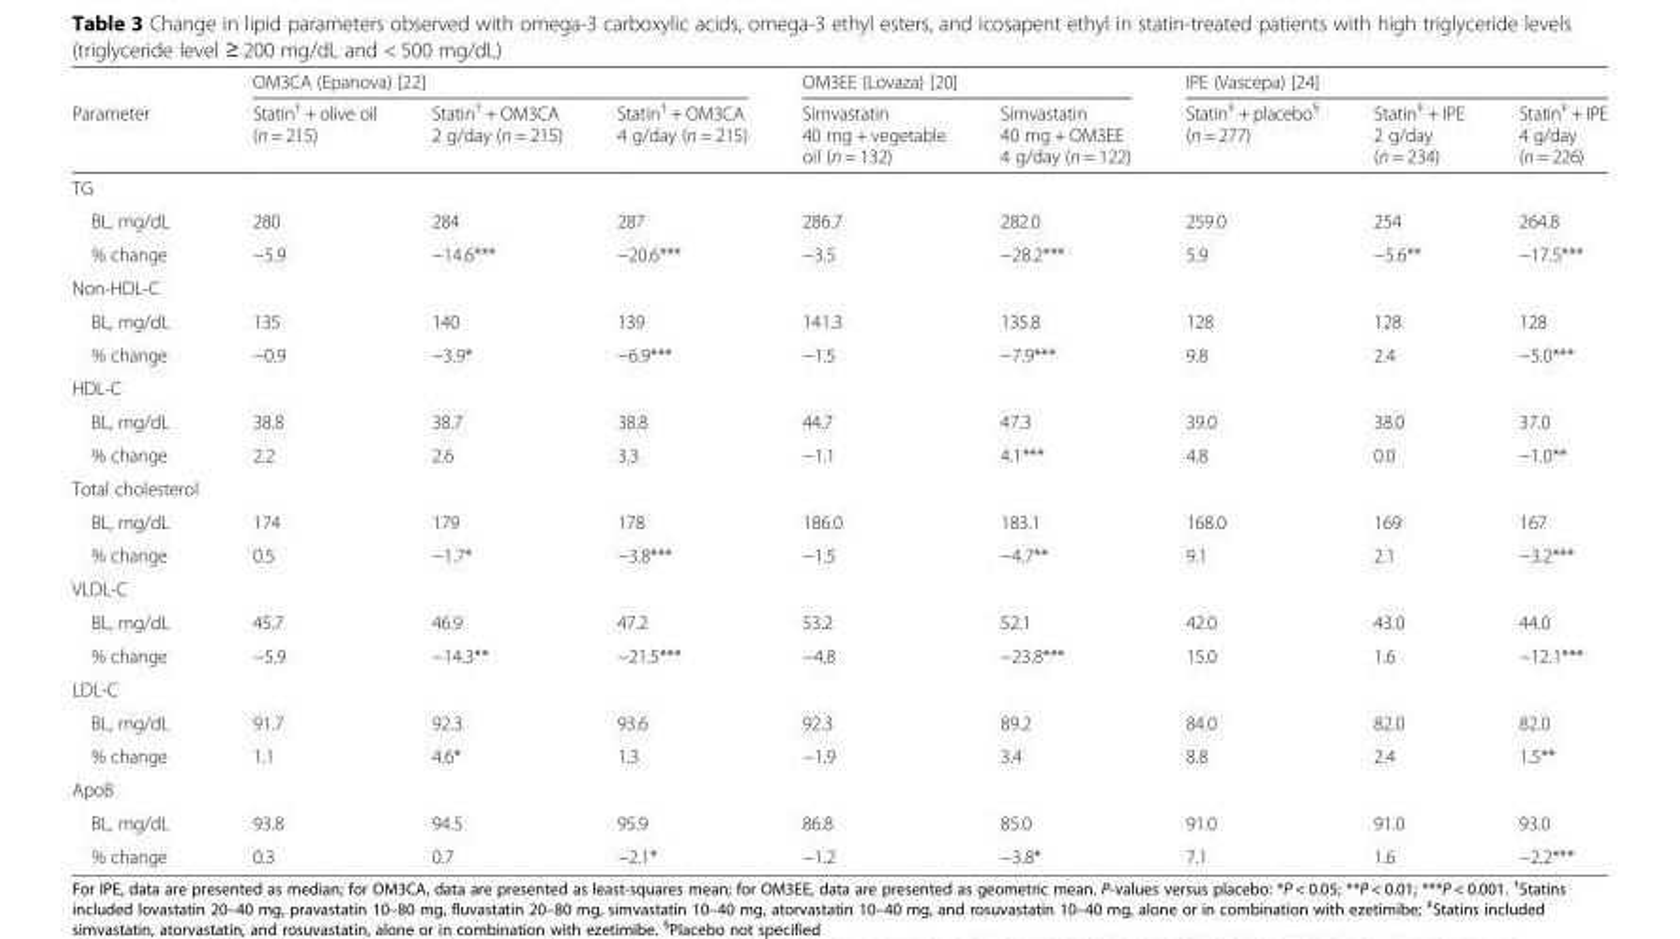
<table><thead><tr><td rowspan="2">Parameter</td><td colspan="3">OM3CA (Epanova) [22]</td><td colspan="2">OM3EE (Lovaza) [20]</td><td colspan="3">IPE (Vascepa) [24]</td></tr><tr><td>Statin<sup>†</sup> + olive oil (n = 215)</td><td>Statin<sup>†</sup> + OM3CA 2 g/day (n = 215)</td><td>Statin<sup>†</sup> + OM3CA 4 g/day (n = 215)</td><td>Simvastatin 40 mg + vegetable oil (n = 132)</td><td>Simvastatin 40 mg + OM3EE 4 g/day (n = 122)</td><td>Statin<sup>‡</sup> + placebo<sup>§</sup> (n = 277)</td><td>Statin<sup>‡</sup> + IPE 2 g/day (n = 234)</td><td>Statin<sup>‡</sup> + IPE 4 g/day (n = 226)</td></tr></thead><tbody><tr><td colspan="9">TG</td></tr><tr><td>BL, mg/dL</td><td>280</td><td>284</td><td>287</td><td>286.7</td><td>282.0</td><td>259.0</td><td>254</td><td>264.8</td></tr><tr><td>% change</td><td>−5.9</td><td>−14.6***</td><td>−20.6***</td><td>−3.5</td><td>−28.2***</td><td>5.9</td><td>−5.6**</td><td>−17.5***</td></tr><tr><td colspan="9">Non-HDL-C</td></tr><tr><td>BL, mg/dL</td><td>135</td><td>140</td><td>139</td><td>141.3</td><td>135.8</td><td>128</td><td>128</td><td>128</td></tr><tr><td>% change</td><td>−0.9</td><td>−3.9*</td><td>−6.9***</td><td>−1.5</td><td>−7.9***</td><td>9.8</td><td>2.4</td><td>−5.0***</td></tr><tr><td colspan="9">HDL-C</td></tr><tr><td>BL, mg/dL</td><td>38.8</td><td>38.7</td><td>38.8</td><td>44.7</td><td>47.3</td><td>39.0</td><td>38.0</td><td>37.0</td></tr><tr><td>% change</td><td>2.2</td><td>2.6</td><td>3.3</td><td>−1.1</td><td>4.1***</td><td>4.8</td><td>0.0</td><td>−1.0**</td></tr><tr><td colspan="9">Total cholesterol</td></tr><tr><td>BL, mg/dL</td><td>174</td><td>179</td><td>178</td><td>186.0</td><td>183.1</td><td>168.0</td><td>169</td><td>167</td></tr><tr><td>% change</td><td>0.5</td><td>−1.7*</td><td>−3.8***</td><td>−1.5</td><td>−4.7**</td><td>9.1</td><td>2.1</td><td>−3.2***</td></tr><tr><td colspan="9">VLDL-C</td></tr><tr><td>BL, mg/dL</td><td>45.7</td><td>46.9</td><td>47.2</td><td>53.2</td><td>52.1</td><td>42.0</td><td>43.0</td><td>44.0</td></tr><tr><td>% change</td><td>−5.9</td><td>−14.3**</td><td>−21.5***</td><td>−4.8</td><td>−23.8***</td><td>15.0</td><td>1.6</td><td>−12.1***</td></tr><tr><td colspan="9">LDL-C</td></tr><tr><td>BL, mg/dL</td><td>91.7</td><td>92.3</td><td>93.6</td><td>92.3</td><td>89.2</td><td>84.0</td><td>82.0</td><td>82.0</td></tr><tr><td>% change</td><td>1.1</td><td>4.6*</td><td>1.3</td><td>−1.9</td><td>3.4</td><td>8.8</td><td>2.4</td><td>1.5**</td></tr><tr><td colspan="9">ApoB</td></tr><tr><td>BL, mg/dL</td><td>93.8</td><td>94.5</td><td>95.9</td><td>86.8</td><td>85.0</td><td>91.0</td><td>91.0</td><td>93.0</td></tr><tr><td>% change</td><td>0.3</td><td>0.7</td><td>−2.1*</td><td>−1.2</td><td>−3.8*</td><td>7.1</td><td>1.6</td><td>−2.2***</td></tr></tbody></table>